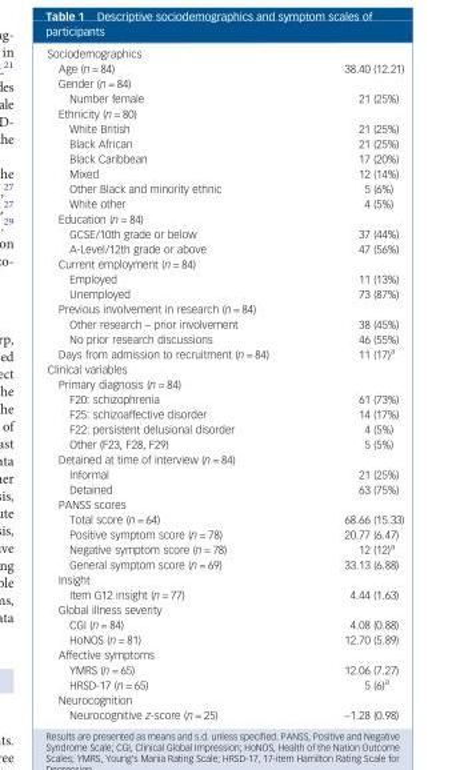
<table><tbody><tr><td colspan="2">Sociodemographics</td></tr><tr><td>Age (n = 84)</td><td>38.40 (12.21)</td></tr><tr><td colspan="2">Gender (n = 84)</td></tr><tr><td>Number female</td><td>21 (25%)</td></tr><tr><td colspan="2">Ethnicity (n = 80)</td></tr><tr><td>White British</td><td>21 (25%)</td></tr><tr><td>Black African</td><td>21 (25%)</td></tr><tr><td>Black Caribbean</td><td>17 (20%)</td></tr><tr><td>Mixed</td><td>12 (14%)</td></tr><tr><td>Other Black and minority ethnic</td><td>5 (6%)</td></tr><tr><td>White other</td><td>4 (5%)</td></tr><tr><td colspan="2">Education (n = 84)</td></tr><tr><td>GCSE/10th grade or below</td><td>37 (44%)</td></tr><tr><td>A-Level/12th grade or above</td><td>47 (56%)</td></tr><tr><td colspan="2">Current employment (n = 84)</td></tr><tr><td>Employed</td><td>11 (13%)</td></tr><tr><td>Unemployed</td><td>73 (87%)</td></tr><tr><td colspan="2">Previous involvement in research (n = 84)</td></tr><tr><td>Other research – prior involvement</td><td>38 (45%)</td></tr><tr><td>No prior research discussions</td><td>46 (55%)</td></tr><tr><td>Days from admission to recruitment (n = 84)</td><td>11 (17)<sup>a</sup></td></tr><tr><td colspan="2">Clinical variables</td></tr><tr><td colspan="2">Primary diagnosis (n = 84)</td></tr><tr><td>F20: schizophrenia</td><td>61 (73%)</td></tr><tr><td>F25: schizoaffective disorder</td><td>14 (17%)</td></tr><tr><td>F22: persistent delusional disorder</td><td>4 (5%)</td></tr><tr><td>Other (F23, F28, F29)</td><td>5 (5%)</td></tr><tr><td colspan="2">Detained at time of interview (n = 84)</td></tr><tr><td>Informal</td><td>21 (25%)</td></tr><tr><td>Detained</td><td>63 (75%)</td></tr><tr><td colspan="2">PANSS scores</td></tr><tr><td>Total score (n = 64)</td><td>68.66 (15.33)</td></tr><tr><td>Positive symptom score (n = 78)</td><td>20.77 (6.47)</td></tr><tr><td>Negative symptom score (n = 78)</td><td>12 (12)<sup>a</sup></td></tr><tr><td>General symptom score (n = 69)</td><td>33.13 (6.88)</td></tr><tr><td colspan="2">Insight</td></tr><tr><td>Item G12 insight (n = 77)</td><td>4.44 (1.63)</td></tr><tr><td colspan="2">Global illness severity</td></tr><tr><td>CGI (n = 84)</td><td>4.08 (0.88)</td></tr><tr><td>HoNOS (n = 81)</td><td>12.70 (5.89)</td></tr><tr><td colspan="2">Affective symptoms</td></tr><tr><td>YMRS (n = 65)</td><td>12.06 (7.27)</td></tr><tr><td>HRSD-17 (n = 65)</td><td>5 (6)<sup>a</sup></td></tr><tr><td colspan="2">Neurocognition</td></tr><tr><td>Neurocognitive z-score (n = 25)</td><td>−1.28 (0.98)</td></tr></tbody></table>